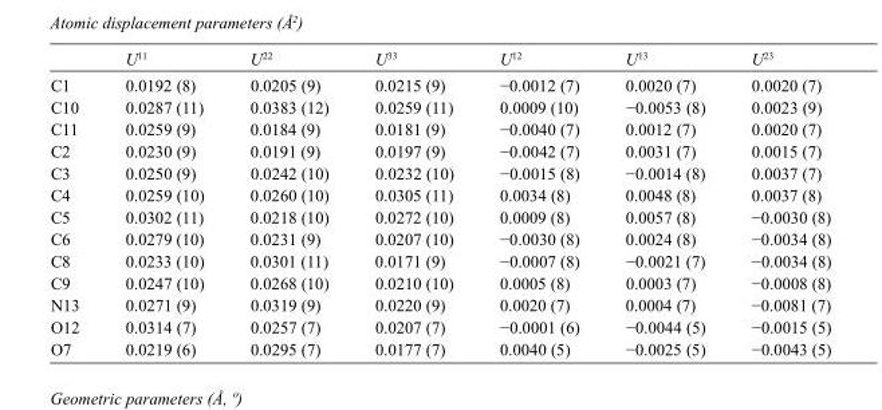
<table><thead><tr><td></td><td>U<sup>11</sup></td><td>U<sup>22</sup></td><td>U<sup>33</sup></td><td>U<sup>12</sup></td><td>U<sup>13</sup></td><td>U<sup>23</sup></td></tr></thead><tbody><tr><td>C1</td><td>0.0192 (8)</td><td>0.0205 (9)</td><td>0.0215 (9)</td><td>−0.0012 (7)</td><td>0.0020 (7)</td><td>0.0020 (7)</td></tr><tr><td>C10</td><td>0.0287 (11)</td><td>0.0383 (12)</td><td>0.0259 (11)</td><td>0.0009 (10)</td><td>−0.0053 (8)</td><td>0.0023 (9)</td></tr><tr><td>C11</td><td>0.0259 (9)</td><td>0.0184 (9)</td><td>0.0181 (9)</td><td>−0.0040 (7)</td><td>0.0012 (7)</td><td>0.0020 (7)</td></tr><tr><td>C2</td><td>0.0230 (9)</td><td>0.0191 (9)</td><td>0.0197 (9)</td><td>−0.0042 (7)</td><td>0.0031 (7)</td><td>0.0015 (7)</td></tr><tr><td>C3</td><td>0.0250 (9)</td><td>0.0242 (10)</td><td>0.0232 (10)</td><td>−0.0015 (8)</td><td>−0.0014 (8)</td><td>0.0037 (7)</td></tr><tr><td>C4</td><td>0.0259 (10)</td><td>0.0260 (10)</td><td>0.0305 (11)</td><td>0.0034 (8)</td><td>0.0048 (8)</td><td>0.0037 (8)</td></tr><tr><td>C5</td><td>0.0302 (11)</td><td>0.0218 (10)</td><td>0.0272 (10)</td><td>0.0009 (8)</td><td>0.0057 (8)</td><td>−0.0030 (8)</td></tr><tr><td>C6</td><td>0.0279 (10)</td><td>0.0231 (9)</td><td>0.0207 (10)</td><td>−0.0030 (8)</td><td>0.0024 (8)</td><td>−0.0034 (8)</td></tr><tr><td>C8</td><td>0.0233 (10)</td><td>0.0301 (11)</td><td>0.0171 (9)</td><td>−0.0007 (8)</td><td>−0.0021 (7)</td><td>−0.0034 (8)</td></tr><tr><td>C9</td><td>0.0247 (10)</td><td>0.0268 (10)</td><td>0.0210 (10)</td><td>0.0005 (8)</td><td>0.0003 (7)</td><td>−0.0008 (8)</td></tr><tr><td>N13</td><td>0.0271 (9)</td><td>0.0319 (9)</td><td>0.0220 (9)</td><td>0.0020 (7)</td><td>0.0004 (7)</td><td>−0.0081 (7)</td></tr><tr><td>O12</td><td>0.0314 (7)</td><td>0.0257 (7)</td><td>0.0207 (7)</td><td>−0.0001 (6)</td><td>−0.0044 (5)</td><td>−0.0015 (5)</td></tr><tr><td>O7</td><td>0.0219 (6)</td><td>0.0295 (7)</td><td>0.0177 (7)</td><td>0.0040 (5)</td><td>−0.0025 (5)</td><td>−0.0043 (5)</td></tr></tbody></table>